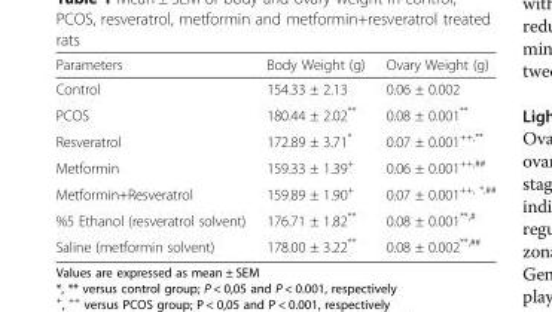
<table><thead><tr><td>Parameters</td><td>Body Weight (g)</td><td>Ovary Weight (g)</td></tr></thead><tbody><tr><td>Control</td><td>154.33 ± 2.13</td><td>0.06 ± 0.002</td></tr><tr><td>PCOS</td><td>180.44 ± 2.02**</td><td>0.08 ± 0.001**</td></tr><tr><td>Resveratrol</td><td>172.89 ± 3.71*</td><td>0.07 ± 0.001<sup>++,**</sup></td></tr><tr><td>Metformin</td><td>159.33 ± 1.39<sup>+</sup></td><td>0.06 ± 0.001<sup>++,##</sup></td></tr><tr><td>Metformin+Resveratrol</td><td>159.89 ± 1.90<sup>+</sup></td><td>0.07 ± 0.001<sup>++, *,##</sup></td></tr><tr><td>%5 Ethanol (resveratrol solvent)</td><td>176.71 ± 1.82**</td><td>0.08 ± 0.001<sup>**,#</sup></td></tr><tr><td>Saline (metformin solvent)</td><td>178.00 ± 3.22**</td><td>0.08 ± 0.002<sup>**,##</sup></td></tr></tbody></table>